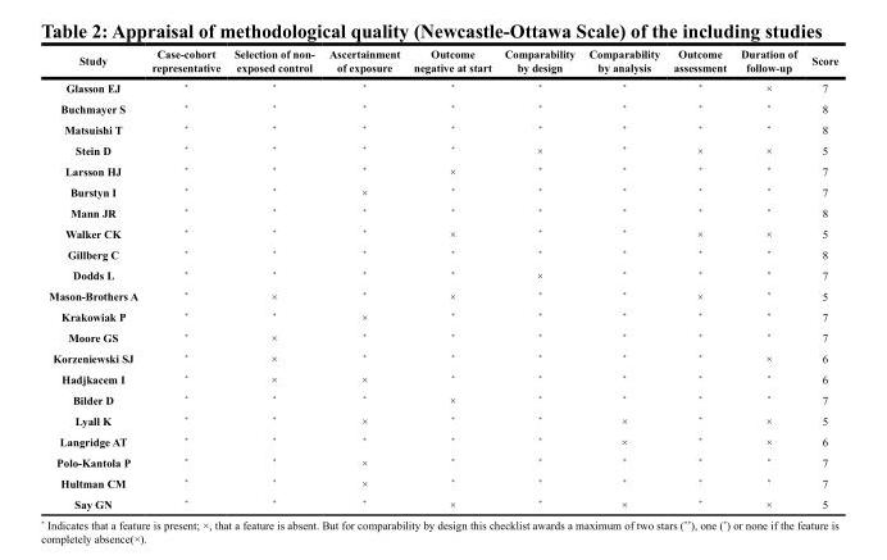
<table><thead><tr><td>Study</td><td>Case-cohort representative</td><td>Selection of non- exposed control</td><td>Ascertainment of exposure</td><td>Outcome negative at start</td><td>Comparability by design</td><td>Comparability by analysis</td><td>Outcome assessment</td><td>Duration of follow-up</td><td>Score</td></tr></thead><tbody><tr><td>Glasson EJ</td><td>*</td><td>*</td><td>*</td><td>*</td><td>*</td><td>*</td><td>*</td><td>×</td><td>7</td></tr><tr><td>Buchmayer S</td><td>*</td><td>*</td><td>*</td><td>*</td><td>*</td><td>*</td><td>*</td><td>*</td><td>8</td></tr><tr><td>Matsuishi T</td><td>*</td><td>*</td><td>*</td><td>*</td><td>*</td><td>*</td><td>*</td><td>*</td><td>8</td></tr><tr><td>Stein D</td><td>*</td><td>*</td><td>*</td><td>*</td><td>×</td><td>*</td><td>×</td><td>×</td><td>5</td></tr><tr><td>Larsson HJ</td><td>*</td><td>*</td><td>*</td><td>×</td><td>*</td><td>*</td><td>*</td><td>*</td><td>7</td></tr><tr><td>Burstyn I</td><td>*</td><td>*</td><td>×</td><td>*</td><td>*</td><td>*</td><td>*</td><td>*</td><td>7</td></tr><tr><td>Mann JR</td><td>*</td><td>*</td><td>*</td><td>*</td><td>*</td><td>*</td><td>*</td><td>*</td><td>8</td></tr><tr><td>Walker CK</td><td>*</td><td>*</td><td>*</td><td>×</td><td>*</td><td>*</td><td>×</td><td>×</td><td>5</td></tr><tr><td>Gillberg C</td><td>*</td><td>*</td><td>*</td><td>*</td><td>*</td><td>*</td><td>*</td><td>*</td><td>8</td></tr><tr><td>Dodds L</td><td>*</td><td>*</td><td>*</td><td>*</td><td>×</td><td>*</td><td>*</td><td>*</td><td>7</td></tr><tr><td>Mason-Brothers A</td><td>*</td><td>×</td><td>*</td><td>×</td><td>*</td><td>*</td><td>×</td><td>*</td><td>5</td></tr><tr><td>Krakowiak P</td><td>*</td><td>*</td><td>×</td><td>*</td><td>*</td><td>*</td><td>*</td><td>*</td><td>7</td></tr><tr><td>Moore GS</td><td>*</td><td>×</td><td>*</td><td>*</td><td>*</td><td>*</td><td>*</td><td>*</td><td>7</td></tr><tr><td>Korzeniewski SJ</td><td>*</td><td>×</td><td>*</td><td>*</td><td>*</td><td>*</td><td>*</td><td>×</td><td>6</td></tr><tr><td>Hadjkacem I</td><td>*</td><td>×</td><td>×</td><td>*</td><td>*</td><td>*</td><td>*</td><td>*</td><td>6</td></tr><tr><td>Bilder D</td><td>*</td><td>*</td><td>*</td><td>×</td><td>*</td><td>*</td><td>*</td><td>*</td><td>7</td></tr><tr><td>Lyall K</td><td>*</td><td>*</td><td>×</td><td>*</td><td>*</td><td>×</td><td>*</td><td>×</td><td>5</td></tr><tr><td>Langridge AT</td><td>*</td><td>*</td><td>*</td><td>*</td><td>*</td><td>×</td><td>*</td><td>×</td><td>6</td></tr><tr><td>Polo-Kantola P</td><td>*</td><td>*</td><td>×</td><td>*</td><td>*</td><td>*</td><td>*</td><td>*</td><td>7</td></tr><tr><td>Hultman CM</td><td>*</td><td>*</td><td>×</td><td>*</td><td>*</td><td>*</td><td>*</td><td>*</td><td>7</td></tr><tr><td>Say GN</td><td>*</td><td>*</td><td>*</td><td>×</td><td>*</td><td>×</td><td>*</td><td>×</td><td>5</td></tr></tbody></table>